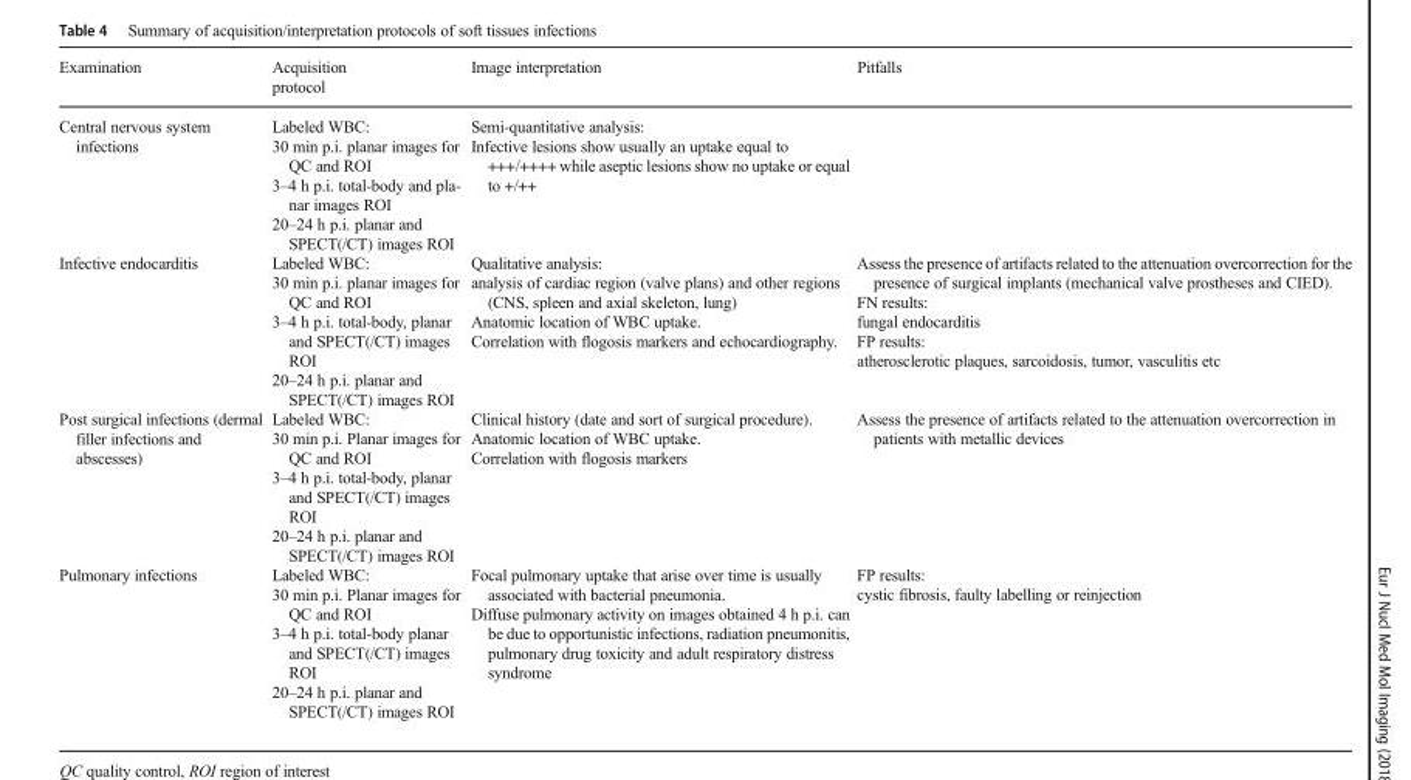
<table><thead><tr><td>Examination</td><td>Acquisition protocol</td><td>Image interpretation</td><td>Pitfalls</td></tr></thead><tbody><tr><td>Central nervous system infections</td><td>Labeled WBC: 30 min p.i. planar images for QC and ROI 3–4 h p.i. total-body and pla- nar images ROI 20–24 h p.i. planar and SPECT(/CT) images ROI</td><td>Semi-quantitative analysis: Infective lesions show usually an uptake equal to +++/++++ while aseptic lesions show no uptake or equal to +/++</td><td></td></tr><tr><td>Infective endocarditis</td><td>Labeled WBC: 30 min p.i. planar images for QC and ROI 3–4 h p.i. total-body, planar and SPECT(/CT) images ROI 20–24 h p.i. planar and SPECT(/CT) images ROI</td><td>Qualitative analysis: analysis of cardiac region (valve plans) and other regions (CNS, spleen and axial skeleton, lung) Anatomic location of WBC uptake. Correlation with flogosis markers and echocardiography.</td><td>Assess the presence of artifacts related to the attenuation overcorrection for the presence of surgical implants (mechanical valve prostheses and CIED). FN results: fungal endocarditis FP results: atherosclerotic plaques, sarcoidosis, tumor, vasculitis etc</td></tr><tr><td>Post surgical infections (dermal filler infections and abscesses)</td><td>Labeled WBC: 30 min p.i. Planar images for QC and ROI 3–4 h p.i. total-body, planar and SPECT(/CT) images ROI 20–24 h p.i. planar and SPECT(/CT) images ROI</td><td>Clinical history (date and sort of surgical procedure). Anatomic location of WBC uptake. Correlation with flogosis markers</td><td>Assess the presence of artifacts related to the attenuation overcorrection in patients with metallic devices</td></tr><tr><td>Pulmonary infections</td><td>Labeled WBC: 30 min p.i. Planar images for QC and ROI 3–4 h p.i. total-body planar and SPECT(/CT) images ROI 20–24 h p.i. planar and SPECT(/CT) images ROI</td><td>Focal pulmonary uptake that arise over time is usually associated with bacterial pneumonia. Diffuse pulmonary activity on images obtained 4 h p.i. can be due to opportunistic infections, radiation pneumonitis, pulmonary drug toxicity and adult respiratory distress syndrome</td><td>FP results: cystic fibrosis, faulty labelling or reinjection</td></tr></tbody></table>